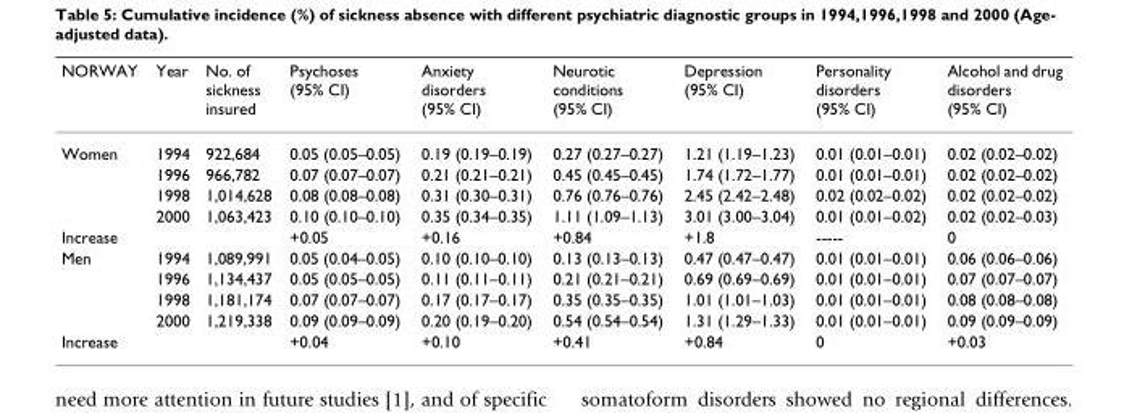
<table><thead><tr><td>NORWAY</td><td>Year</td><td>No. of sickness insured</td><td>Psychoses (95% CI)</td><td>Anxiety disorders (95% CI)</td><td>Neurotic conditions (95% CI)</td><td>Depression (95% CI)</td><td>Personality disorders (95% CI)</td><td>Alcohol and drug disorders (95% CI)</td></tr></thead><tbody><tr><td rowspan="4">Women</td><td>1994</td><td>922,684</td><td>0.05 (0.05–0.05)</td><td>0.19 (0.19–0.19)</td><td>0.27 (0.27–0.27)</td><td>1.21 (1.19–1.23)</td><td>0.01 (0.01–0.01)</td><td>0.02 (0.02–0.02)</td></tr><tr><td>1996</td><td>966,782</td><td>0.07 (0.07–0.07)</td><td>0.21 (0.21–0.21)</td><td>0.45 (0.45–0.45)</td><td>1.74 (1.72–1.77)</td><td>0.01 (0.01–0.01)</td><td>0.02 (0.02–0.02)</td></tr><tr><td>1998</td><td>1,014,628</td><td>0.08 (0.08–0.08)</td><td>0.31 (0.30–0.31)</td><td>0.76 (0.76–0.76)</td><td>2.45 (2.42–2.48)</td><td>0.02 (0.02–0.02)</td><td>0.02 (0.02–0.02)</td></tr><tr><td>2000</td><td>1,063,423</td><td>0.10 (0.10–0.10)</td><td>0.35 (0.34–0.35)</td><td>1.11 (1.09–1.13)</td><td>3.01 (3.00–3.04)</td><td>0.01 (0.01–0.02)</td><td>0.02 (0.02–0.03)</td></tr><tr><td>Increase</td><td></td><td></td><td>+0.05</td><td>+0.16</td><td>+0.84</td><td>+1.8</td><td>-----</td><td>0</td></tr><tr><td rowspan="4">Men</td><td>1994</td><td>1,089,991</td><td>0.05 (0.04–0.05)</td><td>0.10 (0.10–0.10)</td><td>0.13 (0.13–0.13)</td><td>0.47 (0.47–0.47)</td><td>0.01 (0.01–0.01)</td><td>0.06 (0.06–0.06)</td></tr><tr><td>1996</td><td>1,134,437</td><td>0.05 (0.05–0.05)</td><td>0.11 (0.11–0.11)</td><td>0.21 (0.21–0.21)</td><td>0.69 (0.69–0.69)</td><td>0.01 (0.01–0.01)</td><td>0.07 (0.07–0.07)</td></tr><tr><td>1998</td><td>1,181,174</td><td>0.07 (0.07–0.07)</td><td>0.17 (0.17–0.17)</td><td>0.35 (0.35–0.35)</td><td>1.01 (1.01–1.03)</td><td>0.01 (0.01–0.01)</td><td>0.08 (0.08–0.08)</td></tr><tr><td>2000</td><td>1,219,338</td><td>0.09 (0.09–0.09)</td><td>0.20 (0.19–0.20)</td><td>0.54 (0.54–0.54)</td><td>1.31 (1.29–1.33)</td><td>0.01 (0.01–0.01)</td><td>0.09 (0.09–0.09)</td></tr><tr><td>Increase</td><td></td><td></td><td>+0.04</td><td>+0.10</td><td>+0.41</td><td>+0.84</td><td>0</td><td>+0.03</td></tr></tbody></table>